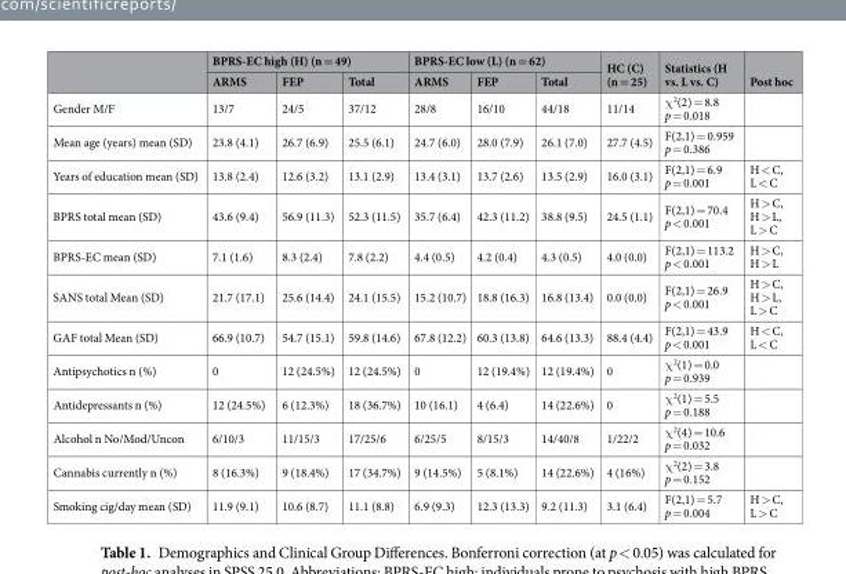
<table><thead><tr><td rowspan="2"></td><td colspan="3">BPRS-EC high (H) (n = 49)</td><td colspan="3">BPRS-EC low (L) (n = 62)</td><td rowspan="2">HC (C) (n = 25)</td><td rowspan="2">Statistics (H vs. L vs. C)</td><td rowspan="2">Post hoc</td></tr><tr><td>ARMS</td><td>FEP</td><td>Total</td><td>ARMS</td><td>FEP</td><td>Total</td></tr></thead><tbody><tr><td>Gender M/F</td><td>13/7</td><td>24/5</td><td>37/12</td><td>28/8</td><td>16/10</td><td>44/18</td><td>11/14</td><td>χ<sup>2</sup>(2) = 8.8 p = 0.018</td><td></td></tr><tr><td>Mean age (years) mean (SD)</td><td>23.8 (4.1)</td><td>26.7 (6.9)</td><td>25.5 (6.1)</td><td>24.7 (6.0)</td><td>28.0 (7.9)</td><td>26.1 (7.0)</td><td>27.7 (4.5)</td><td>F(2,1) = 0.959 p = 0.386</td><td></td></tr><tr><td>Years of education mean (SD)</td><td>13.8 (2.4)</td><td>12.6 (3.2)</td><td>13.1 (2.9)</td><td>13.4 (3.1)</td><td>13.7 (2.6)</td><td>13.5 (2.9)</td><td>16.0 (3.1)</td><td>F(2,1) = 6.9 p = 0.001</td><td>H &lt; C, L &lt; C</td></tr><tr><td>BPRS total mean (SD)</td><td>43.6 (9.4)</td><td>56.9 (11.3)</td><td>52.3 (11.5)</td><td>35.7 (6.4)</td><td>42.3 (11.2)</td><td>38.8 (9.5)</td><td>24.5 (1.1)</td><td>F(2,1) = 70.4 p &lt; 0.001</td><td>H &gt; C, H &gt; L, L &gt; C</td></tr><tr><td>BPRS-EC mean (SD)</td><td>7.1 (1.6)</td><td>8.3 (2.4)</td><td>7.8 (2.2)</td><td>4.4 (0.5)</td><td>4.2 (0.4)</td><td>4.3 (0.5)</td><td>4.0 (0.0)</td><td>F(2,1) = 113.2 p &lt; 0.001</td><td>H &gt; C, H &gt; L</td></tr><tr><td>SANS total Mean (SD)</td><td>21.7 (17.1)</td><td>25.6 (14.4)</td><td>24.1 (15.5)</td><td>15.2 (10.7)</td><td>18.8 (16.3)</td><td>16.8 (13.4)</td><td>0.0 (0.0)</td><td>F(2,1) = 26.9 p &lt; 0.001</td><td>H &gt; C, H &gt; L, L &gt; C</td></tr><tr><td>GAF total Mean (SD)</td><td>66.9 (10.7)</td><td>54.7 (15.1)</td><td>59.8 (14.6)</td><td>67.8 (12.2)</td><td>60.3 (13.8)</td><td>64.6 (13.3)</td><td>88.4 (4.4)</td><td>F(2,1) = 43.9 p &lt; 0.001</td><td>H &lt; C, L &lt; C</td></tr><tr><td>Antipsychotics n (%)</td><td>0</td><td>12 (24.5%)</td><td>12 (24.5%)</td><td>0</td><td>12 (19.4%)</td><td>12 (19.4%)</td><td>0</td><td>χ<sup>2</sup>(1) = 0.0 p = 0.939</td><td></td></tr><tr><td>Antidepressants n (%)</td><td>12 (24.5%)</td><td>6 (12.3%)</td><td>18 (36.7%)</td><td>10 (16.1)</td><td>4 (6.4)</td><td>14 (22.6%)</td><td>0</td><td>χ<sup>2</sup>(1) = 5.5 p = 0.188</td><td></td></tr><tr><td>Alcohol n No/Mod/Uncon</td><td>6/10/3</td><td>11/15/3</td><td>17/25/6</td><td>6/25/5</td><td>8/15/3</td><td>14/40/8</td><td>1/22/2</td><td>χ<sup>2</sup>(4) = 10.6 p = 0.032</td><td></td></tr><tr><td>Cannabis currently n (%)</td><td>8 (16.3%)</td><td>9 (18.4%)</td><td>17 (34.7%)</td><td>9 (14.5%)</td><td>5 (8.1%)</td><td>14 (22.6%)</td><td>4 (16%)</td><td>χ<sup>2</sup>(2) = 3.8 p = 0.152</td><td></td></tr><tr><td>Smoking cig/day mean (SD)</td><td>11.9 (9.1)</td><td>10.6 (8.7)</td><td>11.1 (8.8)</td><td>6.9 (9.3)</td><td>12.3 (13.3)</td><td>9.2 (11.3)</td><td>3.1 (6.4)</td><td>F(2,1) = 5.7 p = 0.004</td><td>H &gt; C, L &gt; C</td></tr></tbody></table>